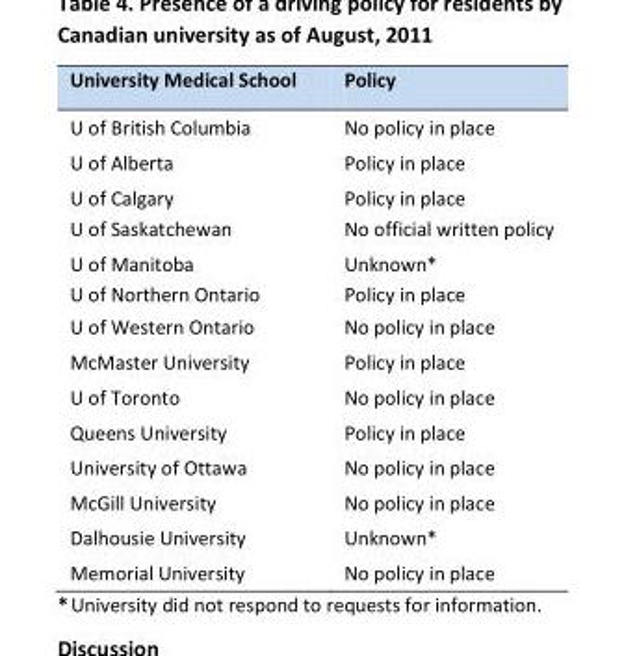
<table><thead><tr><td>University Medical School</td><td>Policy</td></tr></thead><tbody><tr><td>U of British Columbia</td><td>No policy in place</td></tr><tr><td>U of Alberta</td><td>Policy in place</td></tr><tr><td>U of Calgary</td><td>Policy in place</td></tr><tr><td>U of Saskatchewan</td><td>No official written policy</td></tr><tr><td>U of Manitoba</td><td>Unknown*</td></tr><tr><td>U of Northern Ontario</td><td>Policy in place</td></tr><tr><td>U of Western Ontario</td><td>No policy in place</td></tr><tr><td>McMaster University</td><td>Policy in place</td></tr><tr><td>U of Toronto</td><td>No policy in place</td></tr><tr><td>Queens University</td><td>Policy in place</td></tr><tr><td>University of Ottawa</td><td>No policy in place</td></tr><tr><td>McGill University</td><td>No policy in place</td></tr><tr><td>Dalhousie University</td><td>Unknown*</td></tr><tr><td>Memorial University</td><td>No policy in place</td></tr></tbody></table>